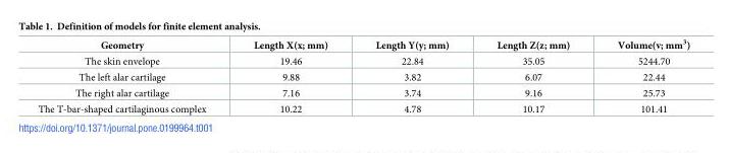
<table><thead><tr><td>Geometry</td><td>Length X(x; mm)</td><td>Length Y(y; mm)</td><td>Length Z(z; mm)</td><td>Volume(v; mm<sup>3</sup>)</td></tr></thead><tbody><tr><td>The skin envelope</td><td>19.46</td><td>22.84</td><td>35.05</td><td>5244.70</td></tr><tr><td>The left alar cartilage</td><td>9.88</td><td>3.82</td><td>6.07</td><td>22.44</td></tr><tr><td>The right alar cartilage</td><td>7.16</td><td>3.74</td><td>9.16</td><td>25.73</td></tr><tr><td>The T-bar-shaped cartilaginous complex</td><td>10.22</td><td>4.78</td><td>10.17</td><td>101.41</td></tr></tbody></table>